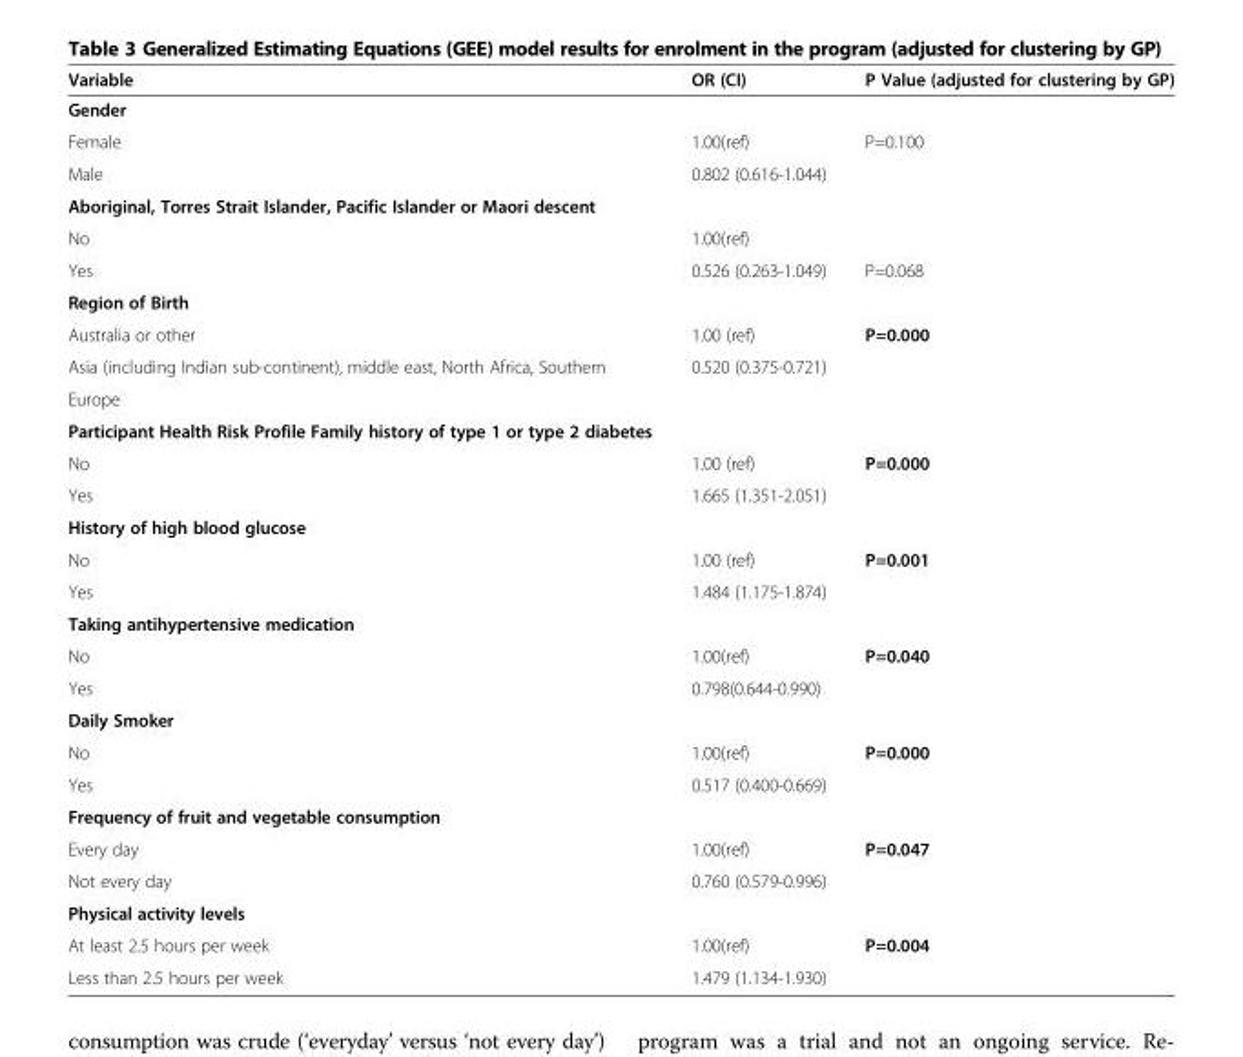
<table><thead><tr><td>Variable</td><td>OR (CI)</td><td>P Value (adjusted for clustering by GP)</td></tr></thead><tbody><tr><td colspan="3">Gender</td></tr><tr><td>Female</td><td>1.00(ref)</td><td>P=0.100</td></tr><tr><td>Male</td><td>0.802 (0.616-1.044)</td><td></td></tr><tr><td colspan="3">Aboriginal, Torres Strait Islander, Pacific Islander or Maori descent</td></tr><tr><td>No</td><td>1.00(ref)</td><td></td></tr><tr><td>Yes</td><td>0.526 (0.263-1.049)</td><td>P=0.068</td></tr><tr><td colspan="3">Region of Birth</td></tr><tr><td>Australia or other</td><td>1.00 (ref)</td><td>P=0.000</td></tr><tr><td>Asia (including Indian sub-continent), middle east, North Africa, Southern</td><td>0.520 (0.375-0.721)</td><td></td></tr><tr><td colspan="3">Europe</td></tr><tr><td colspan="3">Participant Health Risk Profile Family history of type 1 or type 2 diabetes</td></tr><tr><td>No</td><td>1.00 (ref)</td><td>P=0.000</td></tr><tr><td>Yes</td><td>1.665 (1.351-2.051)</td><td></td></tr><tr><td colspan="3">History of high blood glucose</td></tr><tr><td>No</td><td>1.00 (ref)</td><td>P=0.001</td></tr><tr><td>Yes</td><td>1.484 (1.175-1.874)</td><td></td></tr><tr><td colspan="3">Taking antihypertensive medication</td></tr><tr><td>No</td><td>1.00(ref)</td><td>P=0.040</td></tr><tr><td>Yes</td><td>0.798(0.644-0.990)</td><td></td></tr><tr><td colspan="3">Daily Smoker</td></tr><tr><td>No</td><td>1.00(ref)</td><td>P=0.000</td></tr><tr><td>Yes</td><td>0.517 (0.400-0.669)</td><td></td></tr><tr><td colspan="3">Frequency of fruit and vegetable consumption</td></tr><tr><td>Every day</td><td>1.00(ref)</td><td>P=0.047</td></tr><tr><td>Not every day</td><td>0.760 (0.579-0.996)</td><td></td></tr><tr><td colspan="3">Physical activity levels</td></tr><tr><td>At least 2.5 hours per week</td><td>1.00(ref)</td><td>P=0.004</td></tr><tr><td>Less than 2.5 hours per week</td><td>1.479 (1.134-1.930)</td><td></td></tr></tbody></table>